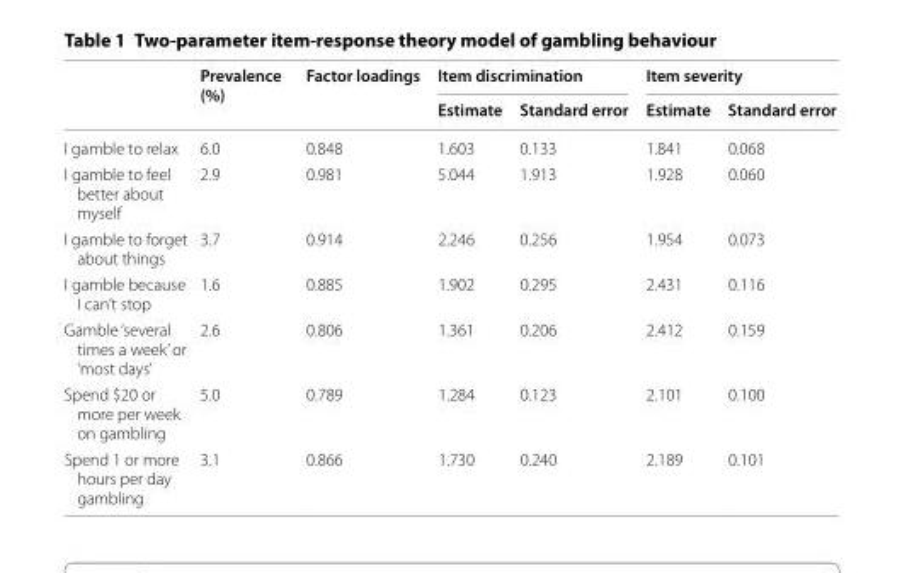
<table><thead><tr><td rowspan="2"></td><td rowspan="2">Prevalence (%)</td><td rowspan="2">Factor loadings</td><td colspan="2">Item discrimination</td><td colspan="2">Item severity</td></tr><tr><td>Estimate</td><td>Standard error</td><td>Estimate</td><td>Standard error</td></tr></thead><tbody><tr><td>I gamble to relax</td><td>6.0</td><td>0.848</td><td>1.603</td><td>0.133</td><td>1.841</td><td>0.068</td></tr><tr><td>I gamble to feel better about myself</td><td>2.9</td><td>0.981</td><td>5.044</td><td>1.913</td><td>1.928</td><td>0.060</td></tr><tr><td>I gamble to forget about things</td><td>3.7</td><td>0.914</td><td>2.246</td><td>0.256</td><td>1.954</td><td>0.073</td></tr><tr><td>I gamble because I can’t stop</td><td>1.6</td><td>0.885</td><td>1.902</td><td>0.295</td><td>2.431</td><td>0.116</td></tr><tr><td>Gamble ‘several times a week’ or ‘most days’</td><td>2.6</td><td>0.806</td><td>1.361</td><td>0.206</td><td>2.412</td><td>0.159</td></tr><tr><td>Spend $20 or more per week on gambling</td><td>5.0</td><td>0.789</td><td>1.284</td><td>0.123</td><td>2.101</td><td>0.100</td></tr><tr><td>Spend 1 or more hours per day gambling</td><td>3.1</td><td>0.866</td><td>1.730</td><td>0.240</td><td>2.189</td><td>0.101</td></tr></tbody></table>